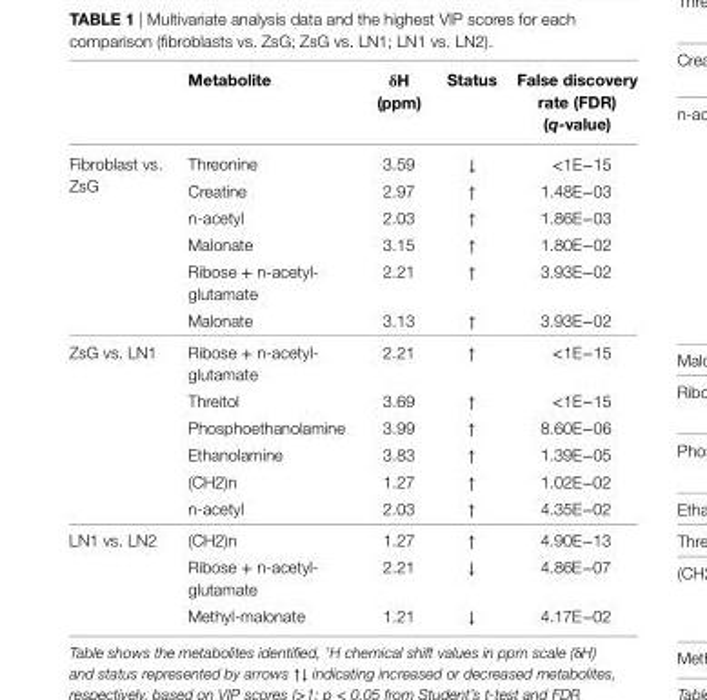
<table><thead><tr><td></td><td>Metabolite</td><td>δh (ppm)</td><td>status</td><td>False discovery rate (FDr) (q-value)</td></tr></thead><tbody><tr><td rowspan="6">Fibroblast vs. ZsG</td><td>Threonine</td><td>3.59</td><td>↓</td><td>&lt;1E−15</td></tr><tr><td>Creatine</td><td>2.97</td><td>↑</td><td>1.48E−03</td></tr><tr><td>n-acetyl</td><td>2.03</td><td>↑</td><td>1.86E−03</td></tr><tr><td>Malonate</td><td>3.15</td><td>↑</td><td>1.80E−02</td></tr><tr><td>Ribose + n-acetyl- glutamate</td><td>2.21</td><td>↑</td><td>3.93E−02</td></tr><tr><td>Malonate</td><td>3.13</td><td>↑</td><td>3.93E−02</td></tr><tr><td rowspan="6">ZsG vs. LN1</td><td>Ribose + n-acetyl- glutamate</td><td>2.21</td><td>↑</td><td>&lt;1E−15</td></tr><tr><td>Threitol</td><td>3.69</td><td>↑</td><td>&lt;1E−15</td></tr><tr><td>Phosphoethanolamine</td><td>3.99</td><td>↑</td><td>8.60E−06</td></tr><tr><td>Ethanolamine</td><td>3.83</td><td>↑</td><td>1.39E−05</td></tr><tr><td>(CH2)n</td><td>1.27</td><td>↑</td><td>1.02E−02</td></tr><tr><td>n-acetyl</td><td>2.03</td><td>↑</td><td>4.35E−02</td></tr><tr><td rowspan="3">LN1 vs. LN2</td><td>(CH2)n</td><td>1.27</td><td>↑</td><td>4.90E−13</td></tr><tr><td>Ribose + n-acetyl- glutamate</td><td>2.21</td><td>↓</td><td>4.86E−07</td></tr><tr><td>Methyl-malonate</td><td>1.21</td><td>↓</td><td>4.17E−02</td></tr></tbody></table>